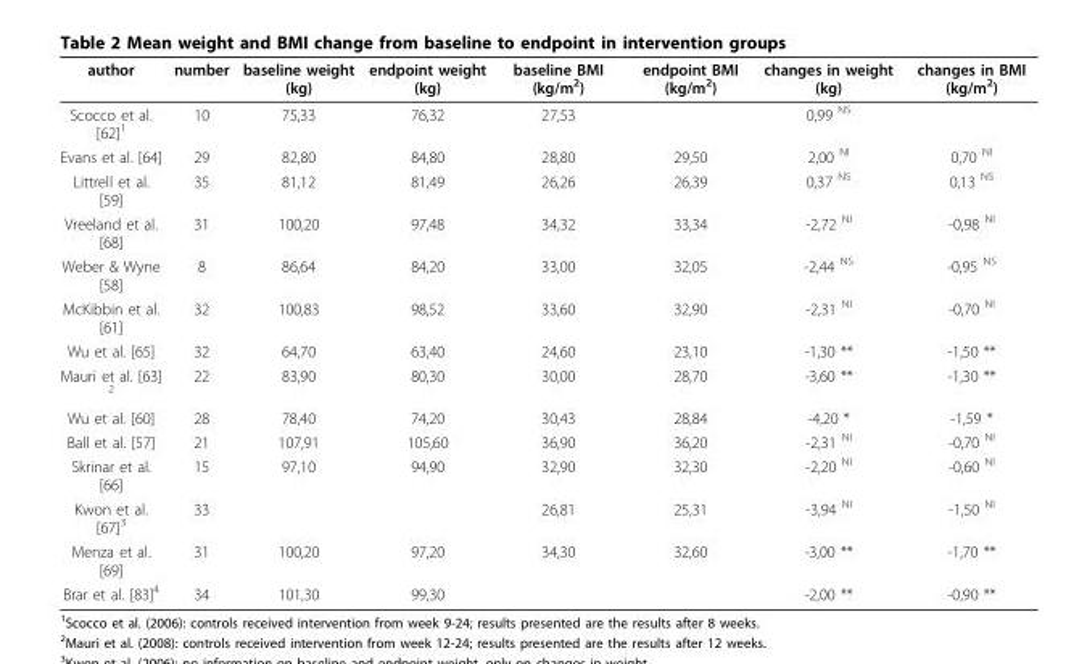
<table><thead><tr><td>author</td><td>number</td><td>baseline weight (kg)</td><td>endpoint weight (kg)</td><td>baseline BMI (kg/m<sup>2</sup>)</td><td>endpoint BMI (kg/m<sup>2</sup>)</td><td>changes in weight (kg)</td><td>changes in BMI (kg/m<sup>2</sup>)</td></tr></thead><tbody><tr><td>Scocco et al. [62]<sup>1</sup></td><td>10</td><td>75,33</td><td>76,32</td><td>27,53</td><td></td><td>0,99 <sup>NS</sup></td><td></td></tr><tr><td>Evans et al. [64]</td><td>29</td><td>82,80</td><td>84,80</td><td>28,80</td><td>29,50</td><td>2,00 <sup>NI</sup></td><td>0,70 <sup>NI</sup></td></tr><tr><td>Littrell et al. [59]</td><td>35</td><td>81,12</td><td>81,49</td><td>26,26</td><td>26,39</td><td>0,37 <sup>NS</sup></td><td>0,13 <sup>NS</sup></td></tr><tr><td>Vreeland et al. [68]</td><td>31</td><td>100,20</td><td>97,48</td><td>34,32</td><td>33,34</td><td>-2,72 <sup>NI</sup></td><td>-0,98 <sup>NI</sup></td></tr><tr><td>Weber &amp; Wyne [58]</td><td>8</td><td>86,64</td><td>84,20</td><td>33,00</td><td>32,05</td><td>-2,44 <sup>NS</sup></td><td>-0,95 <sup>NS</sup></td></tr><tr><td>McKibbin et al. [61]</td><td>32</td><td>100,83</td><td>98,52</td><td>33,60</td><td>32,90</td><td>-2,31 <sup>NI</sup></td><td>-0,70 <sup>NI</sup></td></tr><tr><td>Wu et al. [65]</td><td>32</td><td>64,70</td><td>63,40</td><td>24,60</td><td>23,10</td><td>-1,30 **</td><td>-1,50 **</td></tr><tr><td>Mauri et al. [63] <sup>2</sup></td><td>22</td><td>83,90</td><td>80,30</td><td>30,00</td><td>28,70</td><td>-3,60 **</td><td>-1,30 **</td></tr><tr><td>Wu et al. [60]</td><td>28</td><td>78,40</td><td>74,20</td><td>30,43</td><td>28,84</td><td>-4,20 *</td><td>-1,59 *</td></tr><tr><td>Ball et al. [57]</td><td>21</td><td>107,91</td><td>105,60</td><td>36,90</td><td>36,20</td><td>-2,31 <sup>NI</sup></td><td>-0,70 <sup>NI</sup></td></tr><tr><td>Skrinar et al. [66]</td><td>15</td><td>97,10</td><td>94,90</td><td>32,90</td><td>32,30</td><td>-2,20 <sup>NI</sup></td><td>-0,60 <sup>NI</sup></td></tr><tr><td>Kwon et al. [67]<sup>3</sup></td><td>33</td><td></td><td></td><td>26,81</td><td>25,31</td><td>-3,94 <sup>NI</sup></td><td>-1,50 <sup>NI</sup></td></tr><tr><td>Menza et al. [69]</td><td>31</td><td>100,20</td><td>97,20</td><td>34,30</td><td>32,60</td><td>-3,00 **</td><td>-1,70 **</td></tr><tr><td>Brar et al. [83]<sup>4</sup></td><td>34</td><td>101,30</td><td>99,30</td><td></td><td></td><td>-2,00 **</td><td>-0,90 **</td></tr></tbody></table>